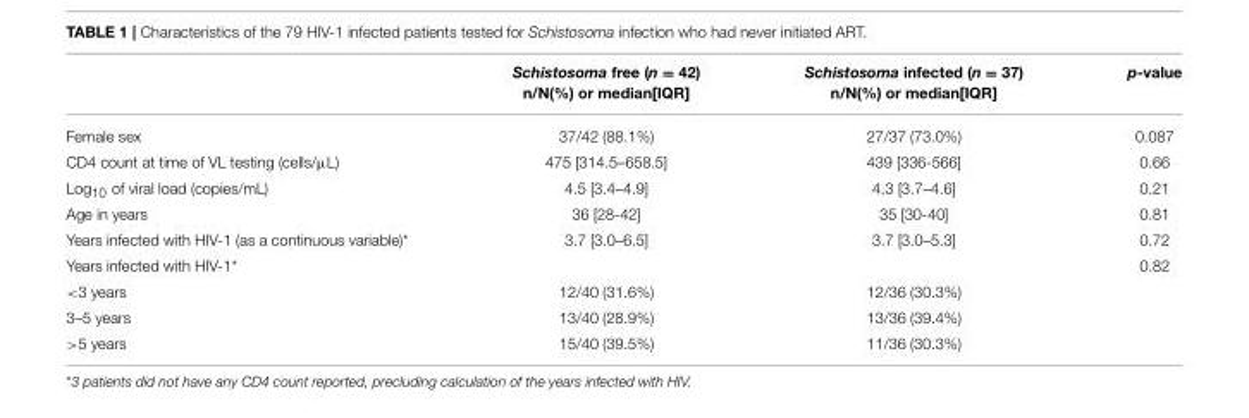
<table><thead><tr><td></td><td>Schistosoma free (n = 42) n/N(%) or median[IQR]</td><td>Schistosoma infected (n = 37) n/N(%) or median[IQR]</td><td>p-value</td></tr></thead><tbody><tr><td>Female sex</td><td>37/42 (88.1%)</td><td>27/37 (73.0%)</td><td>0.087</td></tr><tr><td>CD4 count at time of VL testing (cells/µL)</td><td>475 [314.5–658.5]</td><td>439 [336-566]</td><td>0.66</td></tr><tr><td>Log<sub>10</sub> of viral load (copies/mL)</td><td>4.5 [3.4–4.9]</td><td>4.3 [3.7–4.6]</td><td>0.21</td></tr><tr><td>Age in years</td><td>36 [28-42]</td><td>35 [30-40]</td><td>0.81</td></tr><tr><td>Years infected with HIV-1 (as a continuous variable)*</td><td>3.7 [3.0–6.5]</td><td>3.7 [3.0–5.3]</td><td>0.72</td></tr><tr><td>Years infected with HIV-1*</td><td></td><td></td><td>0.82</td></tr><tr><td>&lt;3 years</td><td>12/40 (31.6%)</td><td>12/36 (30.3%)</td><td></td></tr><tr><td>3–5 years</td><td>13/40 (28.9%)</td><td>13/36 (39.4%)</td><td></td></tr><tr><td>&gt;5 years</td><td>15/40 (39.5%)</td><td>11/36 (30.3%)</td><td></td></tr></tbody></table>